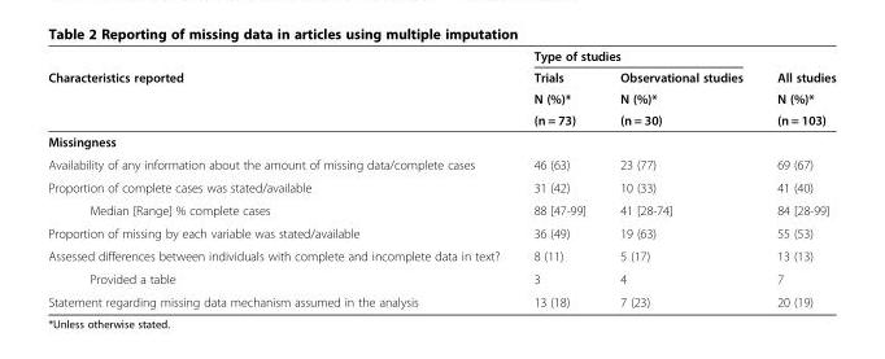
<table><thead><tr><td rowspan="4">Characteristics reported</td><td colspan="2">Type of studies</td><td rowspan="4">All studies N (%)* (n = 103)</td></tr><tr><td rowspan="3">Trials N (%)* (n = 73)</td><td rowspan="3">Observational studies N (%)* (n = 30)</td></tr><tr></tr><tr></tr></thead><tbody><tr><td colspan="4">Missingness</td></tr><tr><td>Availability of any information about the amount of missing data/complete cases</td><td>46 (63)</td><td>23 (77)</td><td>69 (67)</td></tr><tr><td>Proportion of complete cases was stated/available</td><td>31 (42)</td><td>10 (33)</td><td>41 (40)</td></tr><tr><td>Median [Range] % complete cases</td><td>88 [47-99]</td><td>41 [28-74]</td><td>84 [28-99]</td></tr><tr><td>Proportion of missing by each variable was stated/available</td><td>36 (49)</td><td>19 (63)</td><td>55 (53)</td></tr><tr><td>Assessed differences between individuals with complete and incomplete data in text?</td><td>8 (11)</td><td>5 (17)</td><td>13 (13)</td></tr><tr><td>Provided a table</td><td>3</td><td>4</td><td>7</td></tr><tr><td>Statement regarding missing data mechanism assumed in the analysis</td><td>13 (18)</td><td>7 (23)</td><td>20 (19)</td></tr></tbody></table>